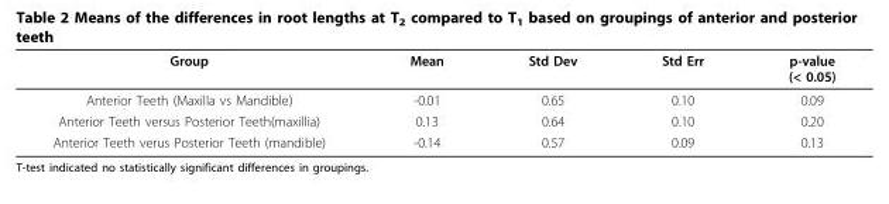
<table><thead><tr><td>Group</td><td>Mean</td><td>Std Dev</td><td>Std Err</td><td>p-value (&lt; 0.05)</td></tr></thead><tbody><tr><td>Anterior Teeth (Maxilla vs Mandible)</td><td>-0.01</td><td>0.65</td><td>0.10</td><td>0.09</td></tr><tr><td>Anterior Teeth versus Posterior Teeth(maxillia)</td><td>0.13</td><td>0.64</td><td>0.10</td><td>0.20</td></tr><tr><td>Anterior Teeth verus Posterior Teeth (mandible)</td><td>-0.14</td><td>0.57</td><td>0.09</td><td>0.13</td></tr></tbody></table>